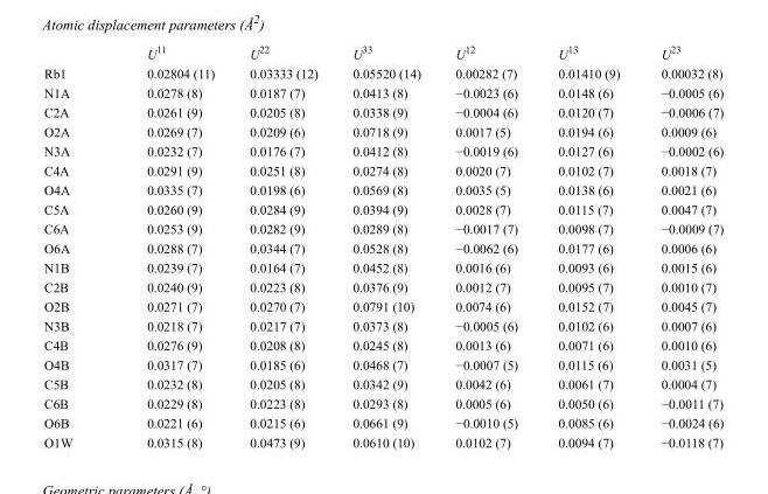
<table><thead><tr><td></td><td>U<sup>11</sup></td><td>U<sup>22</sup></td><td>U<sup>33</sup></td><td>U<sup>12</sup></td><td>U<sup>13</sup></td><td>U<sup>23</sup></td></tr></thead><tbody><tr><td>Rb1</td><td>0.02804 (11)</td><td>0.03333 (12)</td><td>0.05520 (14)</td><td>0.00282 (7)</td><td>0.01410 (9)</td><td>0.00032 (8)</td></tr><tr><td>N1A</td><td>0.0278 (8)</td><td>0.0187 (7)</td><td>0.0413 (8)</td><td>−0.0023 (6)</td><td>0.0148 (6)</td><td>−0.0005 (6)</td></tr><tr><td>C2A</td><td>0.0261 (9)</td><td>0.0205 (8)</td><td>0.0338 (9)</td><td>−0.0004 (6)</td><td>0.0120 (7)</td><td>−0.0006 (7)</td></tr><tr><td>O2A</td><td>0.0269 (7)</td><td>0.0209 (6)</td><td>0.0718 (9)</td><td>0.0017 (5)</td><td>0.0194 (6)</td><td>0.0009 (6)</td></tr><tr><td>N3A</td><td>0.0232 (7)</td><td>0.0176 (7)</td><td>0.0412 (8)</td><td>−0.0019 (6)</td><td>0.0127 (6)</td><td>−0.0002 (6)</td></tr><tr><td>C4A</td><td>0.0291 (9)</td><td>0.0251 (8)</td><td>0.0274 (8)</td><td>0.0020 (7)</td><td>0.0102 (7)</td><td>0.0018 (7)</td></tr><tr><td>O4A</td><td>0.0335 (7)</td><td>0.0198 (6)</td><td>0.0569 (8)</td><td>0.0035 (5)</td><td>0.0138 (6)</td><td>0.0021 (6)</td></tr><tr><td>C5A</td><td>0.0260 (9)</td><td>0.0284 (9)</td><td>0.0394 (9)</td><td>0.0028 (7)</td><td>0.0115 (7)</td><td>0.0047 (7)</td></tr><tr><td>C6A</td><td>0.0253 (9)</td><td>0.0282 (9)</td><td>0.0289 (8)</td><td>−0.0017 (7)</td><td>0.0098 (7)</td><td>−0.0009 (7)</td></tr><tr><td>O6A</td><td>0.0288 (7)</td><td>0.0344 (7)</td><td>0.0528 (8)</td><td>−0.0062 (6)</td><td>0.0177 (6)</td><td>0.0006 (6)</td></tr><tr><td>N1B</td><td>0.0239 (7)</td><td>0.0164 (7)</td><td>0.0452 (8)</td><td>0.0016 (6)</td><td>0.0093 (6)</td><td>0.0015 (6)</td></tr><tr><td>C2B</td><td>0.0240 (9)</td><td>0.0223 (8)</td><td>0.0376 (9)</td><td>0.0012 (7)</td><td>0.0095 (7)</td><td>0.0010 (7)</td></tr><tr><td>O2B</td><td>0.0271 (7)</td><td>0.0270 (7)</td><td>0.0791 (10)</td><td>0.0074 (6)</td><td>0.0152 (7)</td><td>0.0045 (7)</td></tr><tr><td>N3B</td><td>0.0218 (7)</td><td>0.0217 (7)</td><td>0.0373 (8)</td><td>−0.0005 (6)</td><td>0.0102 (6)</td><td>0.0007 (6)</td></tr><tr><td>C4B</td><td>0.0276 (9)</td><td>0.0208 (8)</td><td>0.0245 (8)</td><td>0.0013 (6)</td><td>0.0071 (6)</td><td>0.0010 (6)</td></tr><tr><td>O4B</td><td>0.0317 (7)</td><td>0.0185 (6)</td><td>0.0468 (7)</td><td>−0.0007 (5)</td><td>0.0115 (6)</td><td>0.0031 (5)</td></tr><tr><td>C5B</td><td>0.0232 (8)</td><td>0.0205 (8)</td><td>0.0342 (9)</td><td>0.0042 (6)</td><td>0.0061 (7)</td><td>0.0004 (7)</td></tr><tr><td>C6B</td><td>0.0229 (8)</td><td>0.0223 (8)</td><td>0.0293 (8)</td><td>0.0005 (6)</td><td>0.0050 (6)</td><td>−0.0011 (7)</td></tr><tr><td>O6B</td><td>0.0221 (6)</td><td>0.0215 (6)</td><td>0.0661 (9)</td><td>−0.0010 (5)</td><td>0.0085 (6)</td><td>−0.0024 (6)</td></tr><tr><td>O1W</td><td>0.0315 (8)</td><td>0.0473 (9)</td><td>0.0610 (10)</td><td>0.0102 (7)</td><td>0.0094 (7)</td><td>−0.0118 (7)</td></tr></tbody></table>